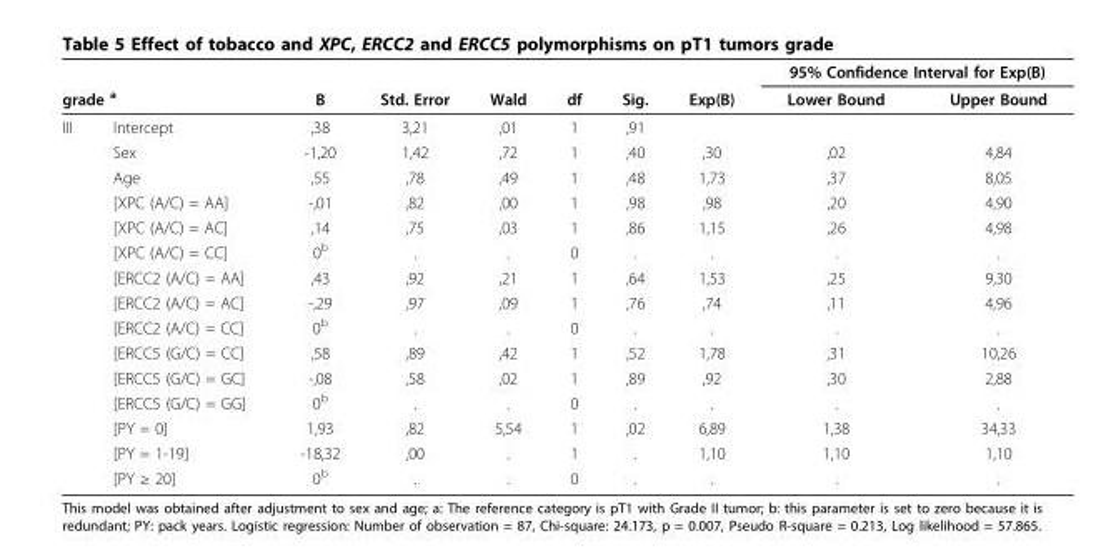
<table><thead><tr><td></td><td></td><td rowspan="2">B</td><td rowspan="2">Std. Error</td><td rowspan="2">Wald</td><td rowspan="2">df</td><td rowspan="2">Sig.</td><td rowspan="2">Exp(B)</td><td colspan="2">95% Confidence Interval for Exp(B)</td></tr><tr><td colspan="2">grade <sup>a</sup></td><td>Lower Bound</td><td>Upper Bound</td></tr></thead><tbody><tr><td rowspan="15">III</td><td>Intercept</td><td>,38</td><td>3,21</td><td>,01</td><td>1</td><td>,91</td><td></td><td></td><td></td></tr><tr><td>Sex</td><td>-1,20</td><td>1,42</td><td>,72</td><td>1</td><td>,40</td><td>,30</td><td>,02</td><td>4,84</td></tr><tr><td>Age</td><td>,55</td><td>,78</td><td>,49</td><td>1</td><td>,48</td><td>1,73</td><td>,37</td><td>8,05</td></tr><tr><td>[XPC (A/C) = AA]</td><td>-,01</td><td>,82</td><td>,00</td><td>1</td><td>,98</td><td>,98</td><td>,20</td><td>4,90</td></tr><tr><td>[XPC (A/C) = AC]</td><td>,14</td><td>,75</td><td>,03</td><td>1</td><td>,86</td><td>1,15</td><td>,26</td><td>4,98</td></tr><tr><td>[XPC (A/C) = CC]</td><td>0<sup>b</sup></td><td>.</td><td>.</td><td>0</td><td>.</td><td>.</td><td>.</td><td>.</td></tr><tr><td>[ERCC2 (A/C) = AA]</td><td>,43</td><td>,92</td><td>,21</td><td>1</td><td>,64</td><td>1,53</td><td>,25</td><td>9,30</td></tr><tr><td>[ERCC2 (A/C) = AC]</td><td>-,29</td><td>,97</td><td>,09</td><td>1</td><td>,76</td><td>,74</td><td>,11</td><td>4,96</td></tr><tr><td>[ERCC2 (A/C) = CC]</td><td>0<sup>b</sup></td><td>.</td><td>.</td><td>0</td><td>.</td><td>.</td><td>.</td><td>.</td></tr><tr><td>[ERCC5 (G/C) = CC]</td><td>,58</td><td>,89</td><td>,42</td><td>1</td><td>,52</td><td>1,78</td><td>,31</td><td>10,26</td></tr><tr><td>[ERCC5 (G/C) = GC]</td><td>-,08</td><td>,58</td><td>,02</td><td>1</td><td>,89</td><td>,92</td><td>,30</td><td>2,88</td></tr><tr><td>[ERCC5 (G/C) = GG]</td><td>0<sup>b</sup></td><td>.</td><td>.</td><td>0</td><td>.</td><td>.</td><td>.</td><td>.</td></tr><tr><td>[PY = 0]</td><td>1,93</td><td>,82</td><td>5,54</td><td>1</td><td>,02</td><td>6,89</td><td>1,38</td><td>34,33</td></tr><tr><td>[PY = 1-19]</td><td>-18,32</td><td>,00</td><td>.</td><td>1</td><td>.</td><td>1,10</td><td>1,10</td><td>1,10</td></tr><tr><td>[PY ≥ 20]</td><td>0<sup>b</sup></td><td>.</td><td>.</td><td>0</td><td>.</td><td>.</td><td>.</td><td>.</td></tr></tbody></table>